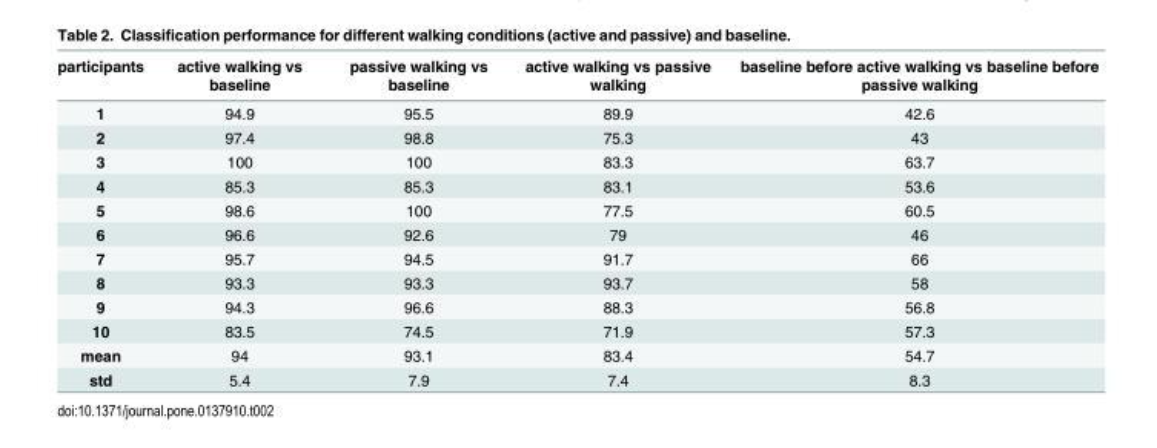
<table><thead><tr><td>participants</td><td>active walking vs baseline</td><td>passive walking vs baseline</td><td>active walking vs passive walking</td><td>baseline before active walking vs baseline before passive walking</td></tr></thead><tbody><tr><td>1</td><td>94.9</td><td>95.5</td><td>89.9</td><td>42.6</td></tr><tr><td>2</td><td>97.4</td><td>98.8</td><td>75.3</td><td>43</td></tr><tr><td>3</td><td>100</td><td>100</td><td>83.3</td><td>63.7</td></tr><tr><td>4</td><td>85.3</td><td>85.3</td><td>83.1</td><td>53.6</td></tr><tr><td>5</td><td>98.6</td><td>100</td><td>77.5</td><td>60.5</td></tr><tr><td>6</td><td>96.6</td><td>92.6</td><td>79</td><td>46</td></tr><tr><td>7</td><td>95.7</td><td>94.5</td><td>91.7</td><td>66</td></tr><tr><td>8</td><td>93.3</td><td>93.3</td><td>93.7</td><td>58</td></tr><tr><td>9</td><td>94.3</td><td>96.6</td><td>88.3</td><td>56.8</td></tr><tr><td>10</td><td>83.5</td><td>74.5</td><td>71.9</td><td>57.3</td></tr><tr><td>mean</td><td>94</td><td>93.1</td><td>83.4</td><td>54.7</td></tr><tr><td>std</td><td>5.4</td><td>7.9</td><td>7.4</td><td>8.3</td></tr></tbody></table>